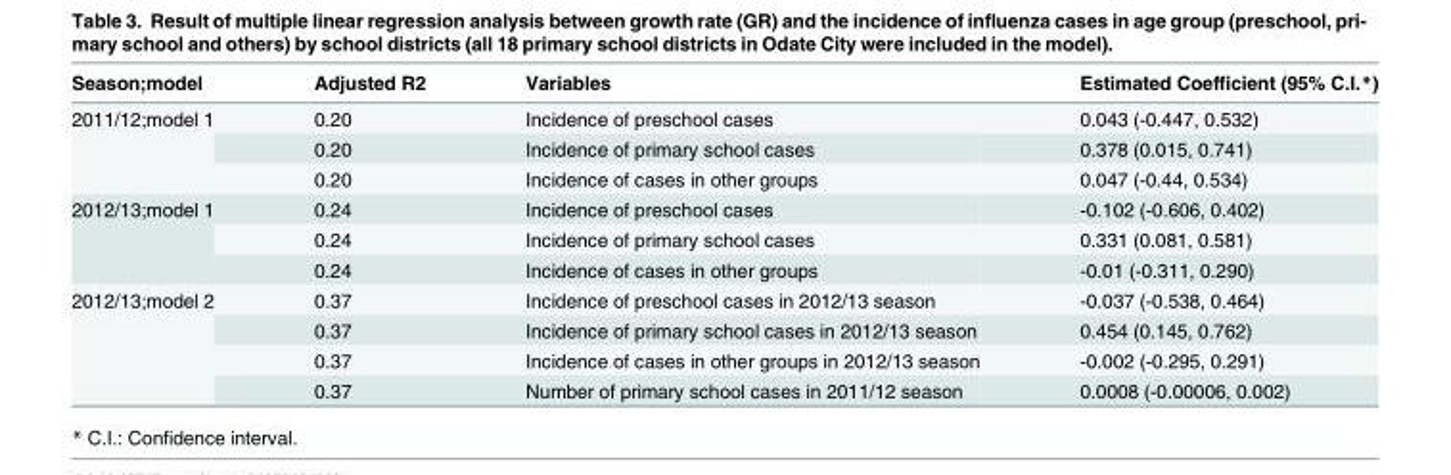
<table><thead><tr><td>Season;model</td><td>Adjusted R2</td><td>Variables</td><td>Estimated Coefficient (95% C.I.*)</td></tr></thead><tbody><tr><td rowspan="3">2011/12;model 1</td><td>0.20</td><td>Incidence of preschool cases</td><td>0.043 (-0.447, 0.532)</td></tr><tr><td>0.20</td><td>Incidence of primary school cases</td><td>0.378 (0.015, 0.741)</td></tr><tr><td>0.20</td><td>Incidence of cases in other groups</td><td>0.047 (-0.44, 0.534)</td></tr><tr><td rowspan="3">2012/13;model 1</td><td>0.24</td><td>Incidence of preschool cases</td><td>-0.102 (-0.606, 0.402)</td></tr><tr><td>0.24</td><td>Incidence of primary school cases</td><td>0.331 (0.081, 0.581)</td></tr><tr><td>0.24</td><td>Incidence of cases in other groups</td><td>-0.01 (-0.311, 0.290)</td></tr><tr><td rowspan="4">2012/13;model 2</td><td>0.37</td><td>Incidence of preschool cases in 2012/13 season</td><td>-0.037 (-0.538, 0.464)</td></tr><tr><td>0.37</td><td>Incidence of primary school cases in 2012/13 season</td><td>0.454 (0.145, 0.762)</td></tr><tr><td>0.37</td><td>Incidence of cases in other groups in 2012/13 season</td><td>-0.002 (-0.295, 0.291)</td></tr><tr><td>0.37</td><td>Number of primary school cases in 2011/12 season</td><td>0.0008 (-0.00006, 0.002)</td></tr></tbody></table>